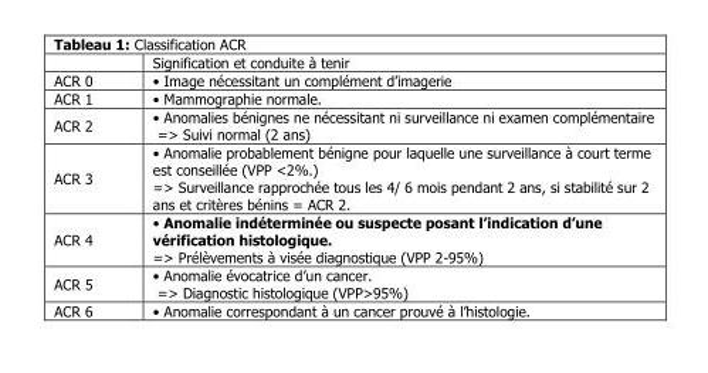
<table><thead><tr><td></td><td>Signification et conduite à tenir</td></tr></thead><tbody><tr><td>ACR 0</td><td>• Image nécessitant un complément d’imagerie</td></tr><tr><td>ACR 1</td><td>• Mammographie normale.</td></tr><tr><td>ACR 2</td><td>• Anomalies bénignes ne nécessitant ni surveillance ni examen complémentaire =&gt; Suivi normal (2 ans)</td></tr><tr><td>ACR 3</td><td>• Anomalie probablement bénigne pour laquelle une surveillance à court terme est conseillée (VPP &lt;2%.) =&gt; Surveillance rapprochée tous les 4/ 6 mois pendant 2 ans, si stabilité sur 2 ans et critères bénins = ACR 2.</td></tr><tr><td>ACR 4</td><td>• Anomalie indéterminée ou suspecte posant l’indication d’une vérification histologique. =&gt; Prélèvements à visée diagnostique (VPP 2-95%)</td></tr><tr><td>ACR 5</td><td>• Anomalie évocatrice d’un cancer. =&gt; Diagnostic histologique (VPP&gt;95%)</td></tr><tr><td>ACR 6</td><td>• Anomalie correspondant à un cancer prouvé à l’histologie.</td></tr></tbody></table>